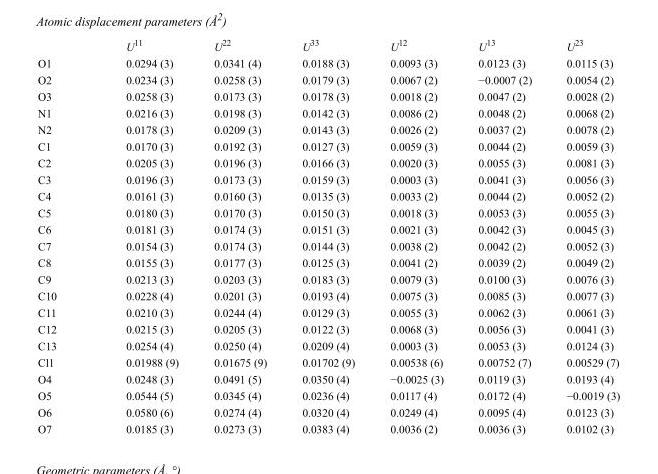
<table><thead><tr><td></td><td>U<sup>11</sup></td><td>U<sup>22</sup></td><td>U<sup>33</sup></td><td>U<sup>12</sup></td><td>U<sup>13</sup></td><td>U<sup>23</sup></td></tr></thead><tbody><tr><td>O1</td><td>0.0294 (3)</td><td>0.0341 (4)</td><td>0.0188 (3)</td><td>0.0093 (3)</td><td>0.0123 (3)</td><td>0.0115 (3)</td></tr><tr><td>O2</td><td>0.0234 (3)</td><td>0.0258 (3)</td><td>0.0179 (3)</td><td>0.0067 (2)</td><td>−0.0007 (2)</td><td>0.0054 (2)</td></tr><tr><td>O3</td><td>0.0258 (3)</td><td>0.0173 (3)</td><td>0.0178 (3)</td><td>0.0018 (2)</td><td>0.0047 (2)</td><td>0.0028 (2)</td></tr><tr><td>N1</td><td>0.0216 (3)</td><td>0.0198 (3)</td><td>0.0142 (3)</td><td>0.0086 (2)</td><td>0.0048 (2)</td><td>0.0068 (2)</td></tr><tr><td>N2</td><td>0.0178 (3)</td><td>0.0209 (3)</td><td>0.0143 (3)</td><td>0.0026 (2)</td><td>0.0037 (2)</td><td>0.0078 (2)</td></tr><tr><td>C1</td><td>0.0170 (3)</td><td>0.0192 (3)</td><td>0.0127 (3)</td><td>0.0059 (3)</td><td>0.0044 (2)</td><td>0.0059 (3)</td></tr><tr><td>C2</td><td>0.0205 (3)</td><td>0.0196 (3)</td><td>0.0166 (3)</td><td>0.0020 (3)</td><td>0.0055 (3)</td><td>0.0081 (3)</td></tr><tr><td>C3</td><td>0.0196 (3)</td><td>0.0173 (3)</td><td>0.0159 (3)</td><td>0.0003 (3)</td><td>0.0041 (3)</td><td>0.0056 (3)</td></tr><tr><td>C4</td><td>0.0161 (3)</td><td>0.0160 (3)</td><td>0.0135 (3)</td><td>0.0033 (2)</td><td>0.0044 (2)</td><td>0.0052 (2)</td></tr><tr><td>C5</td><td>0.0180 (3)</td><td>0.0170 (3)</td><td>0.0150 (3)</td><td>0.0018 (3)</td><td>0.0053 (3)</td><td>0.0055 (3)</td></tr><tr><td>C6</td><td>0.0181 (3)</td><td>0.0174 (3)</td><td>0.0151 (3)</td><td>0.0021 (3)</td><td>0.0042 (3)</td><td>0.0045 (3)</td></tr><tr><td>C7</td><td>0.0154 (3)</td><td>0.0174 (3)</td><td>0.0144 (3)</td><td>0.0038 (2)</td><td>0.0042 (2)</td><td>0.0052 (3)</td></tr><tr><td>C8</td><td>0.0155 (3)</td><td>0.0177 (3)</td><td>0.0125 (3)</td><td>0.0041 (2)</td><td>0.0039 (2)</td><td>0.0049 (2)</td></tr><tr><td>C9</td><td>0.0213 (3)</td><td>0.0203 (3)</td><td>0.0183 (3)</td><td>0.0079 (3)</td><td>0.0100 (3)</td><td>0.0076 (3)</td></tr><tr><td>C10</td><td>0.0228 (4)</td><td>0.0201 (3)</td><td>0.0193 (4)</td><td>0.0075 (3)</td><td>0.0085 (3)</td><td>0.0077 (3)</td></tr><tr><td>C11</td><td>0.0210 (3)</td><td>0.0244 (4)</td><td>0.0129 (3)</td><td>0.0055 (3)</td><td>0.0062 (3)</td><td>0.0061 (3)</td></tr><tr><td>C12</td><td>0.0215 (3)</td><td>0.0205 (3)</td><td>0.0122 (3)</td><td>0.0068 (3)</td><td>0.0056 (3)</td><td>0.0041 (3)</td></tr><tr><td>C13</td><td>0.0254 (4)</td><td>0.0250 (4)</td><td>0.0209 (4)</td><td>0.0003 (3)</td><td>0.0053 (3)</td><td>0.0124 (3)</td></tr><tr><td>Cl1</td><td>0.01988 (9)</td><td>0.01675 (9)</td><td>0.01702 (9)</td><td>0.00538 (6)</td><td>0.00752 (7)</td><td>0.00529 (7)</td></tr><tr><td>O4</td><td>0.0248 (3)</td><td>0.0491 (5)</td><td>0.0350 (4)</td><td>−0.0025 (3)</td><td>0.0119 (3)</td><td>0.0193 (4)</td></tr><tr><td>O5</td><td>0.0544 (5)</td><td>0.0345 (4)</td><td>0.0236 (4)</td><td>0.0117 (4)</td><td>0.0172 (4)</td><td>−0.0019 (3)</td></tr><tr><td>O6</td><td>0.0580 (6)</td><td>0.0274 (4)</td><td>0.0320 (4)</td><td>0.0249 (4)</td><td>0.0095 (4)</td><td>0.0123 (3)</td></tr><tr><td>O7</td><td>0.0185 (3)</td><td>0.0273 (3)</td><td>0.0383 (4)</td><td>0.0036 (2)</td><td>0.0036 (3)</td><td>0.0102 (3)</td></tr></tbody></table>